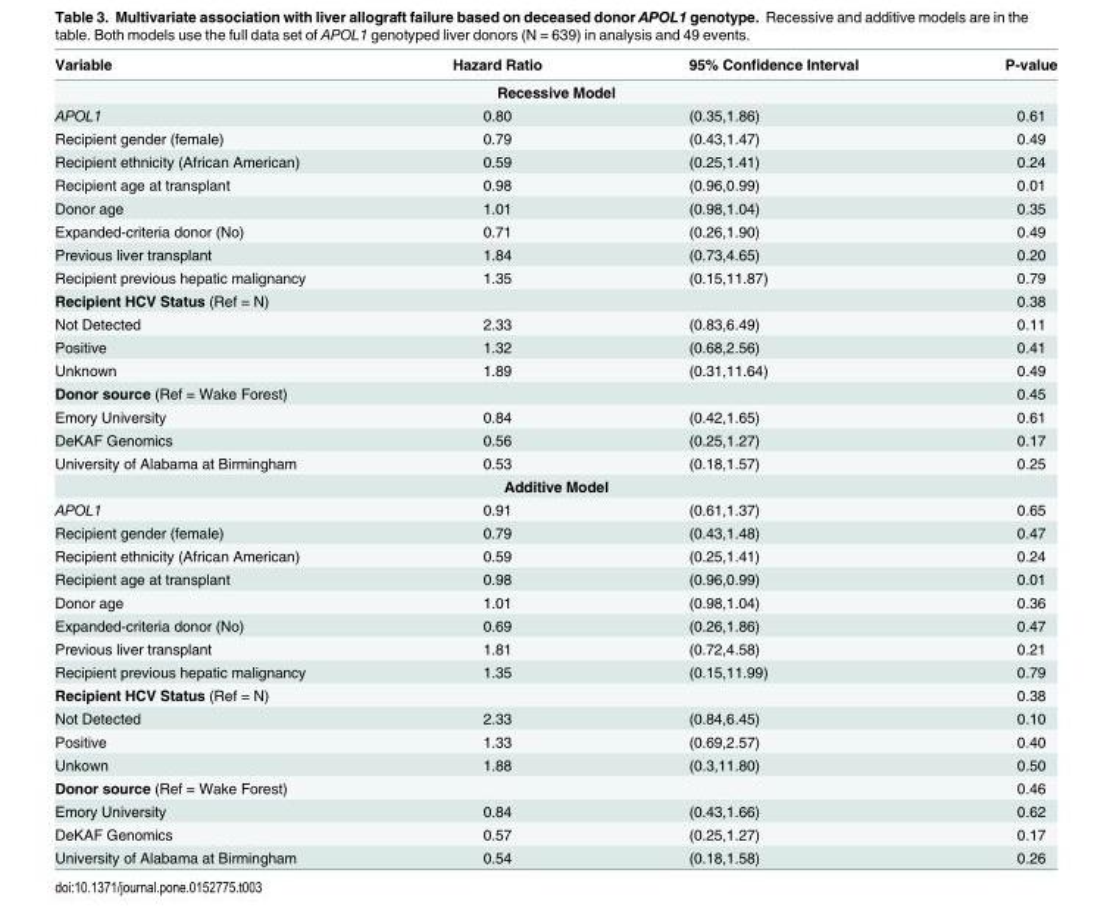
<table><thead><tr><td>Variable</td><td>Hazard Ratio</td><td>95% Confidence Interval</td><td>P-value</td></tr></thead><tbody><tr><td colspan="4">Recessive Model</td></tr><tr><td>APOL1</td><td>0.80</td><td>(0.35,1.86)</td><td>0.61</td></tr><tr><td>Recipient gender (female)</td><td>0.79</td><td>(0.43,1.47)</td><td>0.49</td></tr><tr><td>Recipient ethnicity (African American)</td><td>0.59</td><td>(0.25,1.41)</td><td>0.24</td></tr><tr><td>Recipient age at transplant</td><td>0.98</td><td>(0.96,0.99)</td><td>0.01</td></tr><tr><td>Donor age</td><td>1.01</td><td>(0.98,1.04)</td><td>0.35</td></tr><tr><td>Expanded-criteria donor (No)</td><td>0.71</td><td>(0.26,1.90)</td><td>0.49</td></tr><tr><td>Previous liver transplant</td><td>1.84</td><td>(0.73,4.65)</td><td>0.20</td></tr><tr><td>Recipient previous hepatic malignancy</td><td>1.35</td><td>(0.15,11.87)</td><td>0.79</td></tr><tr><td>Recipient HCV Status (Ref = N)</td><td></td><td></td><td>0.38</td></tr><tr><td>Not Detected</td><td>2.33</td><td>(0.83,6.49)</td><td>0.11</td></tr><tr><td>Positive</td><td>1.32</td><td>(0.68,2.56)</td><td>0.41</td></tr><tr><td>Unknown</td><td>1.89</td><td>(0.31,11.64)</td><td>0.49</td></tr><tr><td>Donor source (Ref = Wake Forest)</td><td></td><td></td><td>0.45</td></tr><tr><td>Emory University</td><td>0.84</td><td>(0.42,1.65)</td><td>0.61</td></tr><tr><td>DeKAF Genomics</td><td>0.56</td><td>(0.25,1.27)</td><td>0.17</td></tr><tr><td>University of Alabama at Birmingham</td><td>0.53</td><td>(0.18,1.57)</td><td>0.25</td></tr><tr><td colspan="4">Additive Model</td></tr><tr><td>APOL1</td><td>0.91</td><td>(0.61,1.37)</td><td>0.65</td></tr><tr><td>Recipient gender (female)</td><td>0.79</td><td>(0.43,1.48)</td><td>0.47</td></tr><tr><td>Recipient ethnicity (African American)</td><td>0.59</td><td>(0.25,1.41)</td><td>0.24</td></tr><tr><td>Recipient age at transplant</td><td>0.98</td><td>(0.96,0.99)</td><td>0.01</td></tr><tr><td>Donor age</td><td>1.01</td><td>(0.98,1.04)</td><td>0.36</td></tr><tr><td>Expanded-criteria donor (No)</td><td>0.69</td><td>(0.26,1.86)</td><td>0.47</td></tr><tr><td>Previous liver transplant</td><td>1.81</td><td>(0.72,4.58)</td><td>0.21</td></tr><tr><td>Recipient previous hepatic malignancy</td><td>1.35</td><td>(0.15,11.99)</td><td>0.79</td></tr><tr><td>Recipient HCV Status (Ref = N)</td><td></td><td></td><td>0.38</td></tr><tr><td>Not Detected</td><td>2.33</td><td>(0.84,6.45)</td><td>0.10</td></tr><tr><td>Positive</td><td>1.33</td><td>(0.69,2.57)</td><td>0.40</td></tr><tr><td>Unkown</td><td>1.88</td><td>(0.3,11.80)</td><td>0.50</td></tr><tr><td>Donor source (Ref = Wake Forest)</td><td></td><td></td><td>0.46</td></tr><tr><td>Emory University</td><td>0.84</td><td>(0.43,1.66)</td><td>0.62</td></tr><tr><td>DeKAF Genomics</td><td>0.57</td><td>(0.25,1.27)</td><td>0.17</td></tr><tr><td>University of Alabama at Birmingham</td><td>0.54</td><td>(0.18,1.58)</td><td>0.26</td></tr></tbody></table>